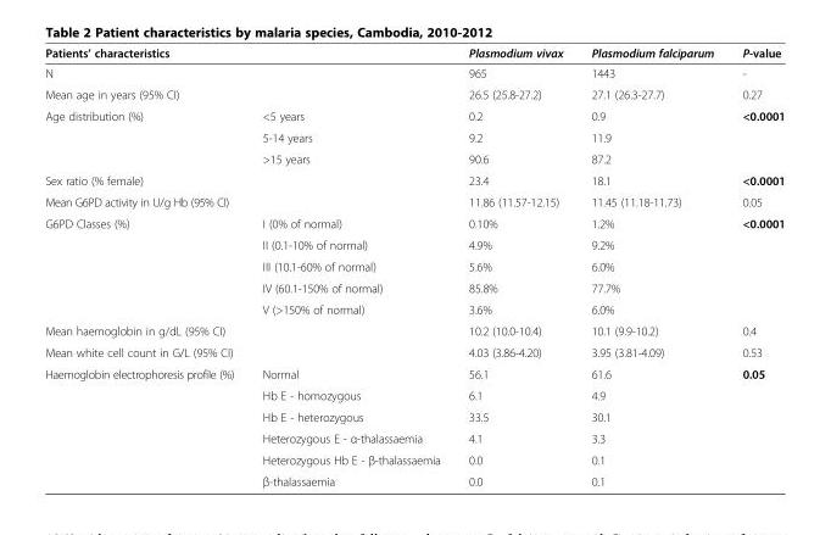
<table><thead><tr><td colspan="2">Patients’ characteristics</td><td rowspan="2">Plasmodium vivax 965</td><td rowspan="2">Plasmodium falciparum 1443</td><td rowspan="2">P-value -</td></tr><tr><td>N</td><td></td></tr></thead><tbody><tr><td colspan="2">Mean age in years (95% CI)</td><td>26.5 (25.8-27.2)</td><td>27.1 (26.3-27.7)</td><td>0.27</td></tr><tr><td rowspan="3">Age distribution (%)</td><td>&lt;5 years</td><td>0.2</td><td>0.9</td><td rowspan="3">&lt;0.0001</td></tr><tr><td>5-14 years</td><td>9.2</td><td>11.9</td></tr><tr><td>&gt;15 years</td><td>90.6</td><td>87.2</td></tr><tr><td>Sex ratio (% female)</td><td></td><td>23.4</td><td>18.1</td><td>&lt;0.0001</td></tr><tr><td colspan="2">Mean G6PD activity in U/g Hb (95% CI)</td><td>11.86 (11.57-12.15)</td><td>11.45 (11.18-11.73)</td><td>0.05</td></tr><tr><td rowspan="5">G6PD Classes (%)</td><td>I (0% of normal)</td><td>0.10%</td><td>1.2%</td><td rowspan="5">&lt;0.0001</td></tr><tr><td>II (0.1-10% of normal)</td><td>4.9%</td><td>9.2%</td></tr><tr><td>III (10.1-60% of normal)</td><td>5.6%</td><td>6.0%</td></tr><tr><td>IV (60.1-150% of normal)</td><td>85.8%</td><td>77.7%</td></tr><tr><td>V (&gt;150% of normal)</td><td>3.6%</td><td>6.0%</td></tr><tr><td colspan="2">Mean haemoglobin in g/dL (95% CI)</td><td>10.2 (10.0-10.4)</td><td>10.1 (9.9-10.2)</td><td>0.4</td></tr><tr><td colspan="2">Mean white cell count in G/L (95% CI)</td><td>4.03 (3.86-4.20)</td><td>3.95 (3.81-4.09)</td><td>0.53</td></tr><tr><td rowspan="6">Haemoglobin electrophoresis profile (%)</td><td>Normal</td><td>56.1</td><td>61.6</td><td rowspan="6">0.05</td></tr><tr><td>Hb E - homozygous</td><td>6.1</td><td>4.9</td></tr><tr><td>Hb E - heterozygous</td><td>33.5</td><td>30.1</td></tr><tr><td>Heterozygous E - α-thalassaemia</td><td>4.1</td><td>3.3</td></tr><tr><td>Heterozygous Hb E - β-thalassaemia</td><td>0.0</td><td>0.1</td></tr><tr><td>β-thalassaemia</td><td>0.0</td><td>0.1</td></tr></tbody></table>